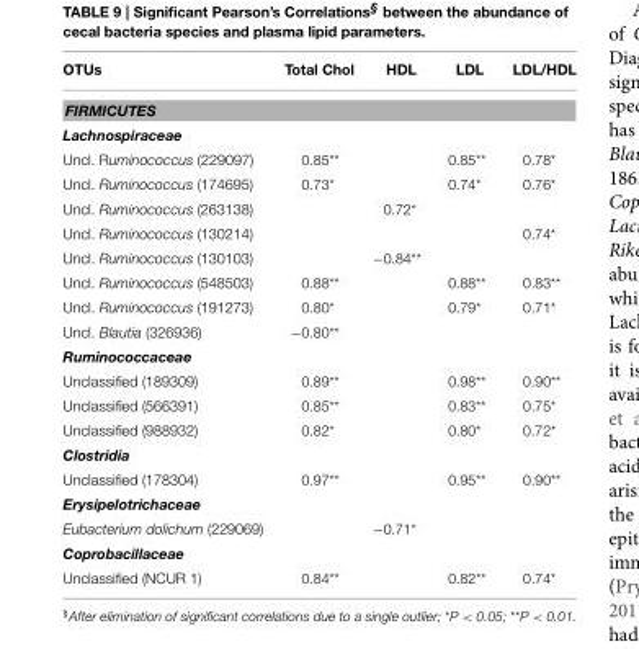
<table><thead><tr><td>OTUs</td><td>Total Chol</td><td>HDL</td><td>LDL</td><td>LDL/HDL</td></tr></thead><tbody><tr><td colspan="5">FIRMICUTES</td></tr><tr><td colspan="5">Lachnospiraceae</td></tr><tr><td>Uncl. Ruminococcus (229097)</td><td>0.85**</td><td></td><td>0.85**</td><td>0.78*</td></tr><tr><td>Uncl. Ruminococcus (174695)</td><td>0.73*</td><td></td><td>0.74*</td><td>0.76*</td></tr><tr><td>Uncl. Ruminococcus (263138)</td><td></td><td>0.72*</td><td></td><td></td></tr><tr><td>Uncl. Ruminococcus (130214)</td><td></td><td></td><td></td><td>0.74*</td></tr><tr><td>Uncl. Ruminococcus (130103)</td><td></td><td>−0.84**</td><td></td><td></td></tr><tr><td>Uncl. Ruminococcus (548503)</td><td>0.88**</td><td></td><td>0.88**</td><td>0.83**</td></tr><tr><td>Uncl. Ruminococcus (191273)</td><td>0.80*</td><td></td><td>0.79*</td><td>0.71*</td></tr><tr><td>Uncl. Blautia (326936)</td><td>−0.80**</td><td></td><td></td><td></td></tr><tr><td colspan="5">Ruminococcaceae</td></tr><tr><td>Unclassified (189309)</td><td>0.89**</td><td></td><td>0.98**</td><td>0.90**</td></tr><tr><td>Unclassified (566391)</td><td>0.85**</td><td></td><td>0.83**</td><td>0.75*</td></tr><tr><td>Unclassified (988932)</td><td>0.82*</td><td></td><td>0.80*</td><td>0.72*</td></tr><tr><td colspan="5">Clostridia</td></tr><tr><td>Unclassified (178304)</td><td>0.97**</td><td></td><td>0.95**</td><td>0.90**</td></tr><tr><td colspan="5">Erysipelotrichaceae</td></tr><tr><td>Eubacterium dolichum (229069)</td><td></td><td>−0.71*</td><td></td><td></td></tr><tr><td colspan="5">Coprobacillaceae</td></tr><tr><td>Unclassified (NCUR 1)</td><td>0.84**</td><td></td><td>0.82**</td><td>0.74*</td></tr></tbody></table>